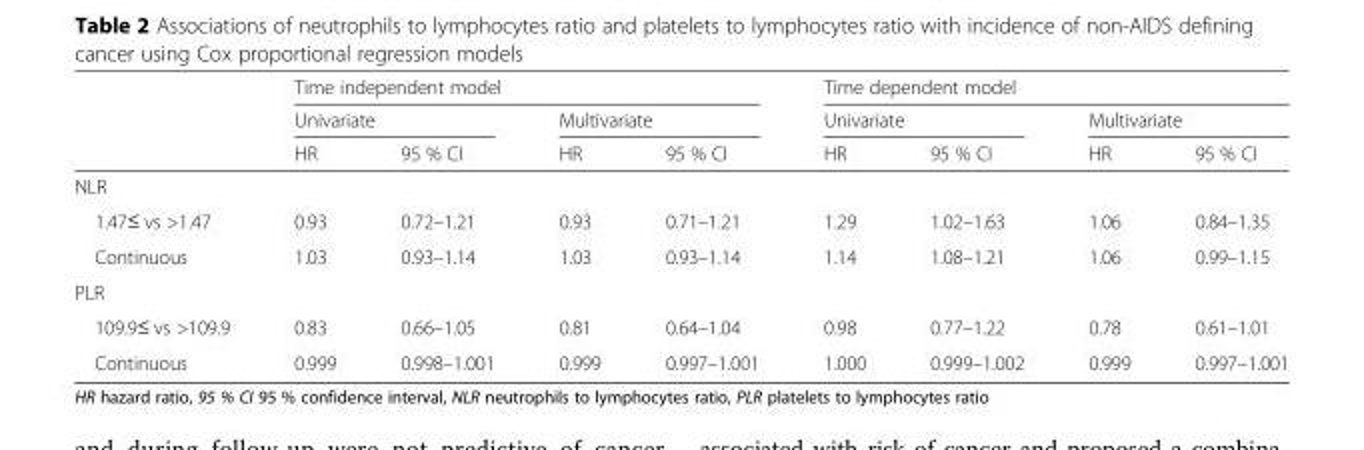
<table><thead><tr><td rowspan="3"></td><td colspan="4">Time independent model</td><td colspan="4">Time dependent model</td></tr><tr><td colspan="2">Univariate</td><td colspan="2">Multivariate</td><td colspan="2">Univariate</td><td colspan="2">Multivariate</td></tr><tr><td>HR</td><td>95 % CI</td><td>HR</td><td>95 % CI</td><td>HR</td><td>95 % CI</td><td>HR</td><td>95 % CI</td></tr></thead><tbody><tr><td colspan="9">NLR</td></tr><tr><td>1.47≤ vs &gt;1.47</td><td>0.93</td><td>0.72–1.21</td><td>0.93</td><td>0.71–1.21</td><td>1.29</td><td>1.02–1.63</td><td>1.06</td><td>0.84–1.35</td></tr><tr><td>Continuous</td><td>1.03</td><td>0.93–1.14</td><td>1.03</td><td>0.93–1.14</td><td>1.14</td><td>1.08–1.21</td><td>1.06</td><td>0.99–1.15</td></tr><tr><td colspan="9">PLR</td></tr><tr><td>109.9≤ vs &gt;109.9</td><td>0.83</td><td>0.66–1.05</td><td>0.81</td><td>0.64–1.04</td><td>0.98</td><td>0.77–1.22</td><td>0.78</td><td>0.61–1.01</td></tr><tr><td>Continuous</td><td>0.999</td><td>0.998–1.001</td><td>0.999</td><td>0.997–1.001</td><td>1.000</td><td>0.999–1.002</td><td>0.999</td><td>0.997–1.001</td></tr></tbody></table>